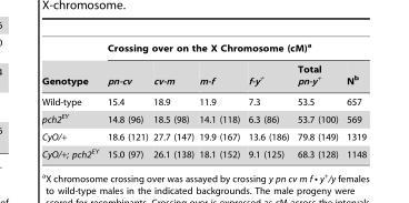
<table><thead><tr><td rowspan="2">Genotype</td><td colspan="6">Crossing over on the X Chromosome (cM)<sup>a</sup></td></tr><tr><td>pn-cv</td><td>cv-m</td><td>m-f</td><td>f-y<sup>+</sup></td><td>Total pn-y<sup>+</sup></td><td>N<sup>b</sup></td></tr></thead><tbody><tr><td>Wild-type</td><td>15.4</td><td>18.9</td><td>11.9</td><td>7.3</td><td>53.5</td><td>657</td></tr><tr><td>pch2<sup>EY</sup></td><td>14.8 (96)</td><td>18.5 (98)</td><td>14.1 (118)</td><td>6.3 (86)</td><td>53.7 (100)</td><td>569</td></tr><tr><td>CyO/+</td><td>18.6 (121)</td><td>27.7 (147)</td><td>19.9 (167)</td><td>13.6 (186)</td><td>79.8 (149)</td><td>1319</td></tr><tr><td>CyO/+; pch2<sup>EY</sup></td><td>15.0 (97)</td><td>26.1 (138)</td><td>18.1 (152)</td><td>9.1 (125)</td><td>68.3 (128)</td><td>1148</td></tr></tbody></table>